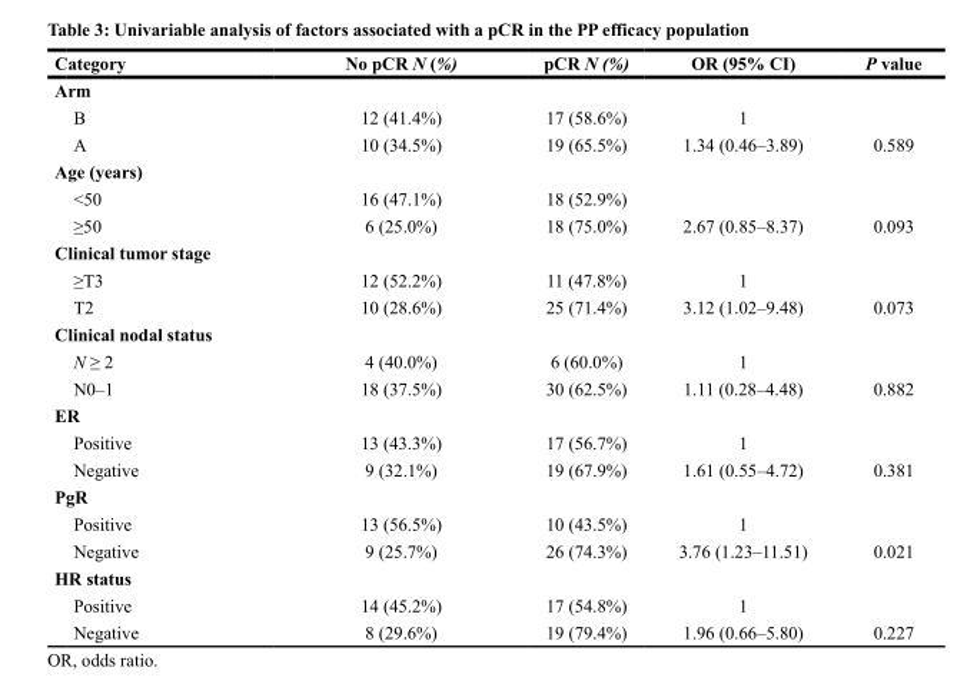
<table><thead><tr><td>Category</td><td>No pCR N (%)</td><td>pCR N (%)</td><td>OR (95% CI)</td><td>P value</td></tr></thead><tbody><tr><td colspan="5">Arm</td></tr><tr><td>B</td><td>12 (41.4%)</td><td>17 (58.6%)</td><td>1</td><td></td></tr><tr><td>A</td><td>10 (34.5%)</td><td>19 (65.5%)</td><td>1.34 (0.46–3.89)</td><td>0.589</td></tr><tr><td colspan="5">Age (years)</td></tr><tr><td>&lt;50</td><td>16 (47.1%)</td><td>18 (52.9%)</td><td></td><td></td></tr><tr><td>≥50</td><td>6 (25.0%)</td><td>18 (75.0%)</td><td>2.67 (0.85–8.37)</td><td>0.093</td></tr><tr><td colspan="5">Clinical tumor stage</td></tr><tr><td>≥T3</td><td>12 (52.2%)</td><td>11 (47.8%)</td><td>1</td><td></td></tr><tr><td>T2</td><td>10 (28.6%)</td><td>25 (71.4%)</td><td>3.12 (1.02–9.48)</td><td>0.073</td></tr><tr><td colspan="5">Clinical nodal status</td></tr><tr><td>N ≥ 2</td><td>4 (40.0%)</td><td>6 (60.0%)</td><td>1</td><td></td></tr><tr><td>N0–1</td><td>18 (37.5%)</td><td>30 (62.5%)</td><td>1.11 (0.28–4.48)</td><td>0.882</td></tr><tr><td colspan="5">ER</td></tr><tr><td>Positive</td><td>13 (43.3%)</td><td>17 (56.7%)</td><td>1</td><td></td></tr><tr><td>Negative</td><td>9 (32.1%)</td><td>19 (67.9%)</td><td>1.61 (0.55–4.72)</td><td>0.381</td></tr><tr><td colspan="5">PgR</td></tr><tr><td>Positive</td><td>13 (56.5%)</td><td>10 (43.5%)</td><td>1</td><td></td></tr><tr><td>Negative</td><td>9 (25.7%)</td><td>26 (74.3%)</td><td>3.76 (1.23–11.51)</td><td>0.021</td></tr><tr><td colspan="5">HR status</td></tr><tr><td>Positive</td><td>14 (45.2%)</td><td>17 (54.8%)</td><td>1</td><td></td></tr><tr><td>Negative</td><td>8 (29.6%)</td><td>19 (79.4%)</td><td>1.96 (0.66–5.80)</td><td>0.227</td></tr></tbody></table>